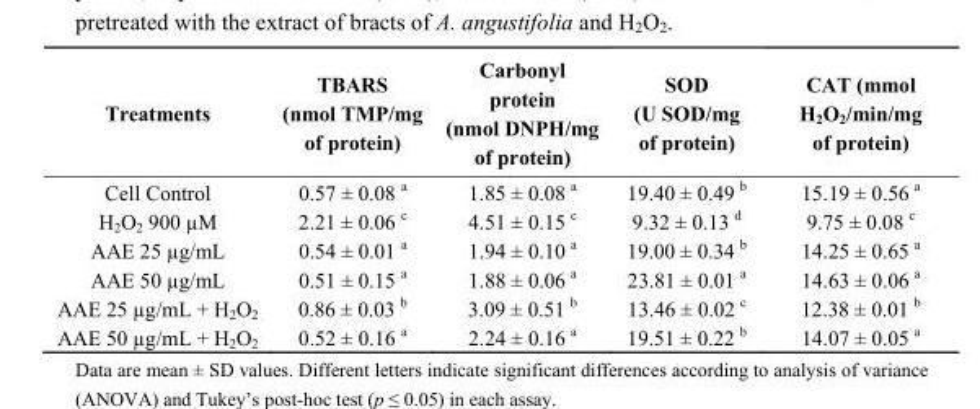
<table><thead><tr><td>Treatments</td><td>TBARS (nmol TMP/mg of protein)</td><td>Carbonyl protein (nmol DNPH/mg of protein)</td><td>SOD (U SOD/mg of protein)</td><td>CAT (mmol H<sub>2</sub>O<sub>2</sub>/min/mg of protein)</td></tr></thead><tbody><tr><td>Cell Control</td><td>0.57 ± 0.08 <sup>a</sup></td><td>1.85 ± 0.08 <sup>a</sup></td><td>19.40 ± 0.49 <sup>b</sup></td><td>15.19 ± 0.56 <sup>a</sup></td></tr><tr><td>H<sub>2</sub>O<sub>2</sub> 900 µM</td><td>2.21 ± 0.06 <sup>c</sup></td><td>4.51 ± 0.15 <sup>c</sup></td><td>9.32 ± 0.13 <sup>d</sup></td><td>9.75 ± 0.08 <sup>c</sup></td></tr><tr><td>AAE 25 µg/mL</td><td>0.54 ± 0.01 <sup>a</sup></td><td>1.94 ± 0.10 <sup>a</sup></td><td>19.00 ± 0.34 <sup>b</sup></td><td>14.25 ± 0.65 <sup>a</sup></td></tr><tr><td>AAE 50 µg/mL</td><td>0.51 ± 0.15 <sup>a</sup></td><td>1.88 ± 0.06 <sup>a</sup></td><td>23.81 ± 0.01 <sup>a</sup></td><td>14.63 ± 0.06 <sup>a</sup></td></tr><tr><td>AAE 25 µg/mL + H<sub>2</sub>O<sub>2</sub></td><td>0.86 ± 0.03 <sup>b</sup></td><td>3.09 ± 0.51 <sup>b</sup></td><td>13.46 ± 0.02 <sup>c</sup></td><td>12.38 ± 0.01 <sup>b</sup></td></tr><tr><td>AAE 50 µg/mL + H<sub>2</sub>O<sub>2</sub></td><td>0.52 ± 0.16 <sup>a</sup></td><td>2.24 ± 0.16 <sup>a</sup></td><td>19.51 ± 0.22 <sup>b</sup></td><td>14.07 ± 0.05 <sup>a</sup></td></tr></tbody></table>